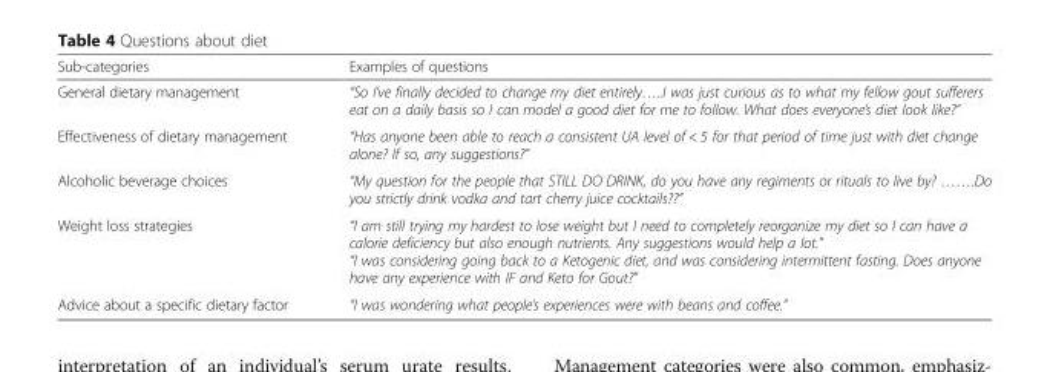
<table><thead><tr><td>Sub-categories</td><td>Examples of questions</td></tr></thead><tbody><tr><td>General dietary management</td><td>“So I’ve finally decided to change my diet entirely…..I was just curious as to what my fellow gout sufferers eat on a daily basis so I can model a good diet for me to follow. What does everyone’s diet look like?”</td></tr><tr><td>Effectiveness of dietary management</td><td>“Has anyone been able to reach a consistent UA level of &lt; 5 for that period of time just with diet change alone? If so, any suggestions?”</td></tr><tr><td>Alcoholic beverage choices</td><td>“My question for the people that STILL DO DRINK, do you have any regiments or rituals to live by? …….Do you strictly drink vodka and tart cherry juice cocktails??”</td></tr><tr><td>Weight loss strategies</td><td>“I am still trying my hardest to lose weight but I need to completely reorganize my diet so I can have a calorie deficiency but also enough nutrients. Any suggestions would help a lot.” “I was considering going back to a Ketogenic diet, and was considering intermittent fasting. Does anyone have any experience with IF and Keto for Gout?”</td></tr><tr><td>Advice about a specific dietary factor</td><td>“I was wondering what people’s experiences were with beans and coffee.”</td></tr></tbody></table>